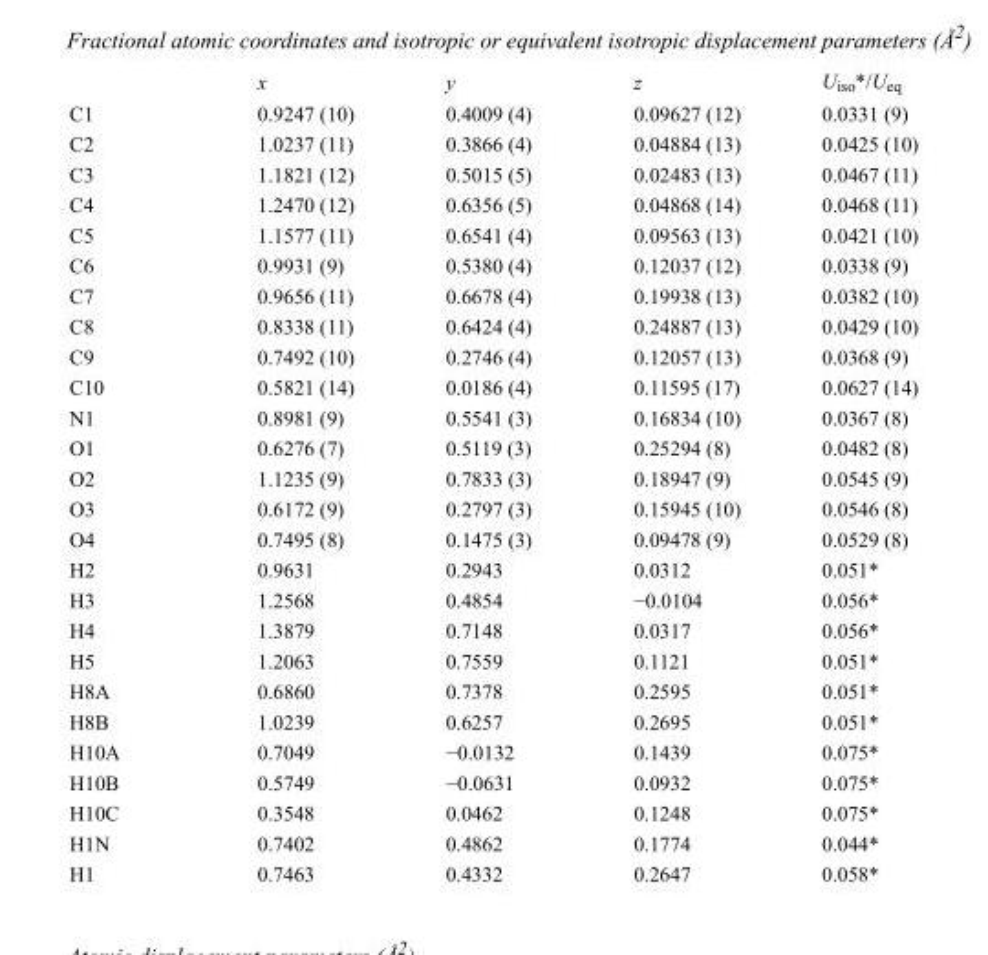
<table><thead><tr><td></td><td>x</td><td>y</td><td>z</td><td>U<sub>iso</sub>*/U<sub>eq</sub></td></tr></thead><tbody><tr><td>C1</td><td>0.9247 (10)</td><td>0.4009 (4)</td><td>0.09627 (12)</td><td>0.0331 (9)</td></tr><tr><td>C2</td><td>1.0237 (11)</td><td>0.3866 (4)</td><td>0.04884 (13)</td><td>0.0425 (10)</td></tr><tr><td>C3</td><td>1.1821 (12)</td><td>0.5015 (5)</td><td>0.02483 (13)</td><td>0.0467 (11)</td></tr><tr><td>C4</td><td>1.2470 (12)</td><td>0.6356 (5)</td><td>0.04868 (14)</td><td>0.0468 (11)</td></tr><tr><td>C5</td><td>1.1577 (11)</td><td>0.6541 (4)</td><td>0.09563 (13)</td><td>0.0421 (10)</td></tr><tr><td>C6</td><td>0.9931 (9)</td><td>0.5380 (4)</td><td>0.12037 (12)</td><td>0.0338 (9)</td></tr><tr><td>C7</td><td>0.9656 (11)</td><td>0.6678 (4)</td><td>0.19938 (13)</td><td>0.0382 (10)</td></tr><tr><td>C8</td><td>0.8338 (11)</td><td>0.6424 (4)</td><td>0.24887 (13)</td><td>0.0429 (10)</td></tr><tr><td>C9</td><td>0.7492 (10)</td><td>0.2746 (4)</td><td>0.12057 (13)</td><td>0.0368 (9)</td></tr><tr><td>C10</td><td>0.5821 (14)</td><td>0.0186 (4)</td><td>0.11595 (17)</td><td>0.0627 (14)</td></tr><tr><td>N1</td><td>0.8981 (9)</td><td>0.5541 (3)</td><td>0.16834 (10)</td><td>0.0367 (8)</td></tr><tr><td>O1</td><td>0.6276 (7)</td><td>0.5119 (3)</td><td>0.25294 (8)</td><td>0.0482 (8)</td></tr><tr><td>O2</td><td>1.1235 (9)</td><td>0.7833 (3)</td><td>0.18947 (9)</td><td>0.0545 (9)</td></tr><tr><td>O3</td><td>0.6172 (9)</td><td>0.2797 (3)</td><td>0.15945 (10)</td><td>0.0546 (8)</td></tr><tr><td>O4</td><td>0.7495 (8)</td><td>0.1475 (3)</td><td>0.09478 (9)</td><td>0.0529 (8)</td></tr><tr><td>H2</td><td>0.9631</td><td>0.2943</td><td>0.0312</td><td>0.051*</td></tr><tr><td>H3</td><td>1.2568</td><td>0.4854</td><td>−0.0104</td><td>0.056*</td></tr><tr><td>H4</td><td>1.3879</td><td>0.7148</td><td>0.0317</td><td>0.056*</td></tr><tr><td>H5</td><td>1.2063</td><td>0.7559</td><td>0.1121</td><td>0.051*</td></tr><tr><td>H8A</td><td>0.6860</td><td>0.7378</td><td>0.2595</td><td>0.051*</td></tr><tr><td>H8B</td><td>1.0239</td><td>0.6257</td><td>0.2695</td><td>0.051*</td></tr><tr><td>H10A</td><td>0.7049</td><td>−0.0132</td><td>0.1439</td><td>0.075*</td></tr><tr><td>H10B</td><td>0.5749</td><td>−0.0631</td><td>0.0932</td><td>0.075*</td></tr><tr><td>H10C</td><td>0.3548</td><td>0.0462</td><td>0.1248</td><td>0.075*</td></tr><tr><td>H1N</td><td>0.7402</td><td>0.4862</td><td>0.1774</td><td>0.044*</td></tr><tr><td>H1</td><td>0.7463</td><td>0.4332</td><td>0.2647</td><td>0.058*</td></tr></tbody></table>